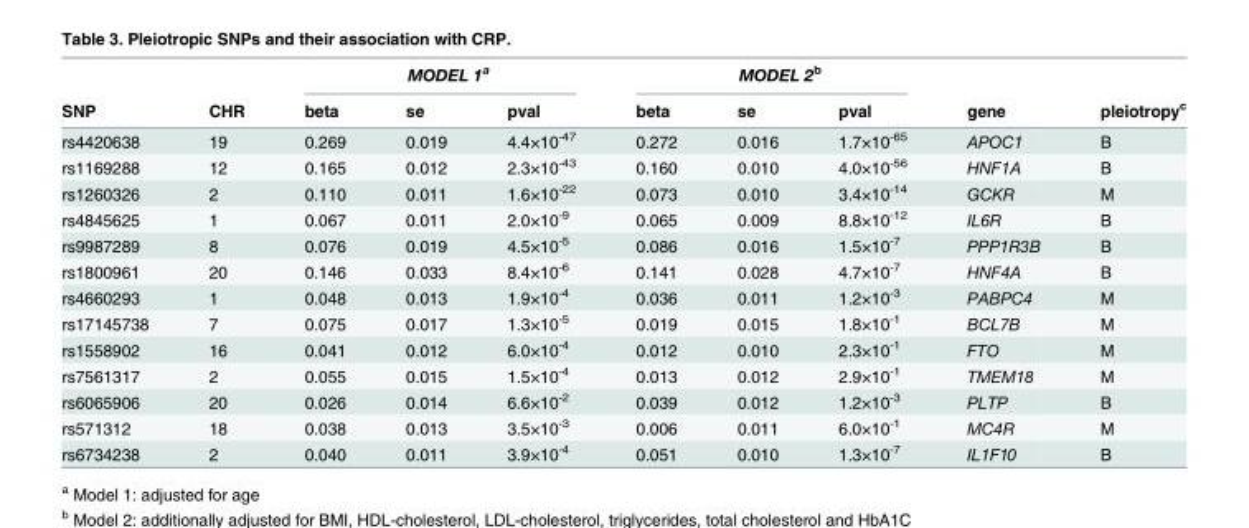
<table><thead><tr><td rowspan="2">SNP</td><td rowspan="2">CHR</td><td colspan="3">MODEL 1<sup>a</sup></td><td colspan="3">MODEL 2<sup>b</sup></td><td rowspan="2">gene</td><td rowspan="2">pleiotropy<sup>c</sup></td></tr><tr><td>beta</td><td>se</td><td>pval</td><td>beta</td><td>se</td><td>pval</td></tr></thead><tbody><tr><td>rs4420638</td><td>19</td><td>0.269</td><td>0.019</td><td>4.4×10<sup>-47</sup></td><td>0.272</td><td>0.016</td><td>1.7×10<sup>-65</sup></td><td>APOC1</td><td>B</td></tr><tr><td>rs1169288</td><td>12</td><td>0.165</td><td>0.012</td><td>2.3×10<sup>-43</sup></td><td>0.160</td><td>0.010</td><td>4.0×10<sup>-56</sup></td><td>HNF1A</td><td>B</td></tr><tr><td>rs1260326</td><td>2</td><td>0.110</td><td>0.011</td><td>1.6×10<sup>-22</sup></td><td>0.073</td><td>0.010</td><td>3.4×10<sup>-14</sup></td><td>GCKR</td><td>M</td></tr><tr><td>rs4845625</td><td>1</td><td>0.067</td><td>0.011</td><td>2.0×10<sup>-9</sup></td><td>0.065</td><td>0.009</td><td>8.8×10<sup>-12</sup></td><td>IL6R</td><td>B</td></tr><tr><td>rs9987289</td><td>8</td><td>0.076</td><td>0.019</td><td>4.5×10<sup>-5</sup></td><td>0.086</td><td>0.016</td><td>1.5×10<sup>-7</sup></td><td>PPP1R3B</td><td>B</td></tr><tr><td>rs1800961</td><td>20</td><td>0.146</td><td>0.033</td><td>8.4×10<sup>-6</sup></td><td>0.141</td><td>0.028</td><td>4.7×10<sup>-7</sup></td><td>HNF4A</td><td>B</td></tr><tr><td>rs4660293</td><td>1</td><td>0.048</td><td>0.013</td><td>1.9×10<sup>-4</sup></td><td>0.036</td><td>0.011</td><td>1.2×10<sup>-3</sup></td><td>PABPC4</td><td>M</td></tr><tr><td>rs17145738</td><td>7</td><td>0.075</td><td>0.017</td><td>1.3×10<sup>-5</sup></td><td>0.019</td><td>0.015</td><td>1.8×10<sup>-1</sup></td><td>BCL7B</td><td>M</td></tr><tr><td>rs1558902</td><td>16</td><td>0.041</td><td>0.012</td><td>6.0×10<sup>-4</sup></td><td>0.012</td><td>0.010</td><td>2.3×10<sup>-1</sup></td><td>FTO</td><td>M</td></tr><tr><td>rs7561317</td><td>2</td><td>0.055</td><td>0.015</td><td>1.5×10<sup>-4</sup></td><td>0.013</td><td>0.012</td><td>2.9×10<sup>-1</sup></td><td>TMEM18</td><td>M</td></tr><tr><td>rs6065906</td><td>20</td><td>0.026</td><td>0.014</td><td>6.6×10<sup>-2</sup></td><td>0.039</td><td>0.012</td><td>1.2×10<sup>-3</sup></td><td>PLTP</td><td>B</td></tr><tr><td>rs571312</td><td>18</td><td>0.038</td><td>0.013</td><td>3.5×10<sup>-3</sup></td><td>0.006</td><td>0.011</td><td>6.0×10<sup>-1</sup></td><td>MC4R</td><td>M</td></tr><tr><td>rs6734238</td><td>2</td><td>0.040</td><td>0.011</td><td>3.9×10<sup>-4</sup></td><td>0.051</td><td>0.010</td><td>1.3×10<sup>-7</sup></td><td>IL1F10</td><td>B</td></tr></tbody></table>